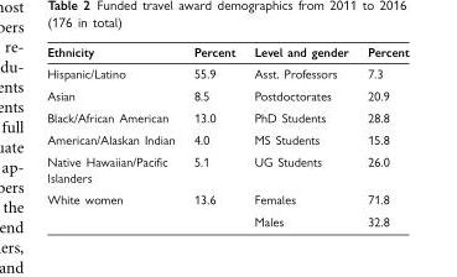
<table><thead><tr><td>Ethnicity</td><td>Percent</td><td>Level and gender</td><td>Percent</td></tr></thead><tbody><tr><td>Hispanic/Latino</td><td>55.9</td><td>Asst. Professors</td><td>7.3</td></tr><tr><td>Asian</td><td>8.5</td><td>Postdoctorates</td><td>20.9</td></tr><tr><td>Black/African American</td><td>13.0</td><td>PhD Students</td><td>28.8</td></tr><tr><td>American/Alaskan Indian</td><td>4.0</td><td>MS Students</td><td>15.8</td></tr><tr><td>Native Hawaiian/Pacific Islanders</td><td>5.1</td><td>UG Students</td><td>26.0</td></tr><tr><td rowspan="2">White women</td><td>13.6</td><td>Females</td><td>71.8</td></tr><tr><td></td><td>Males</td><td>32.8</td></tr></tbody></table>